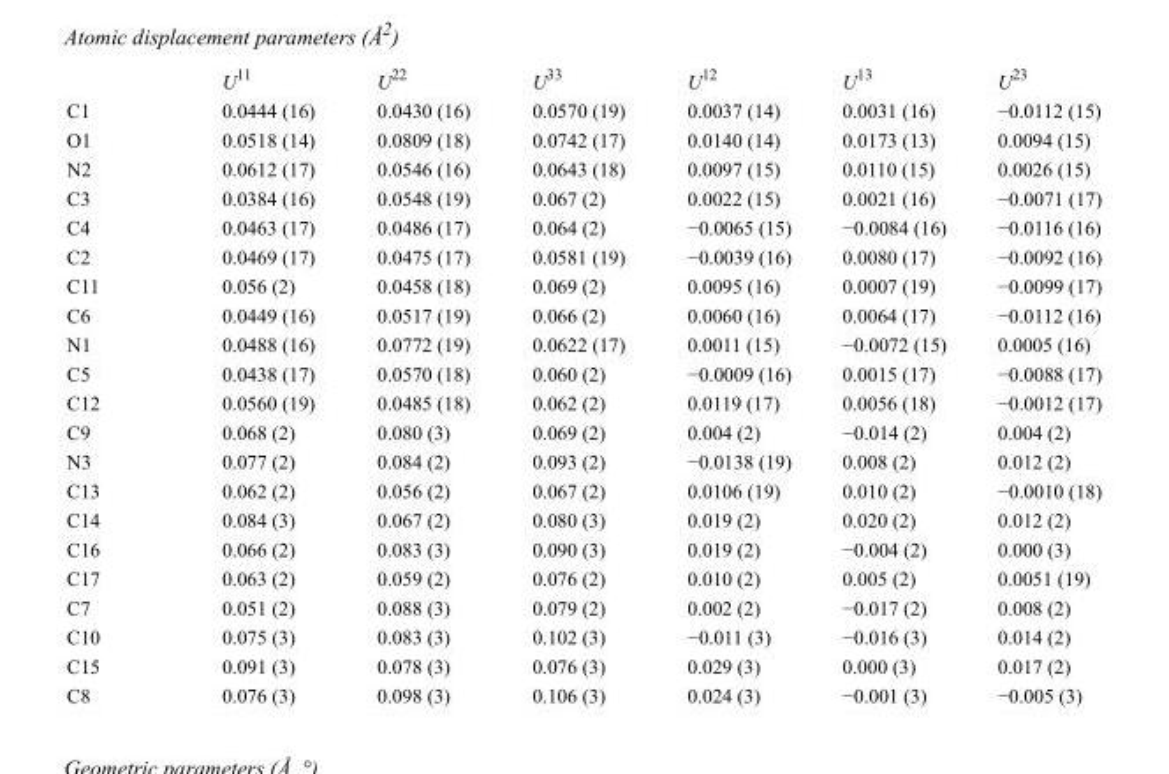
<table><thead><tr><td></td><td>U<sup>11</sup></td><td>U<sup>22</sup></td><td>U<sup>33</sup></td><td>U<sup>12</sup></td><td>U<sup>13</sup></td><td>U<sup>23</sup></td></tr></thead><tbody><tr><td>C1</td><td>0.0444 (16)</td><td>0.0430 (16)</td><td>0.0570 (19)</td><td>0.0037 (14)</td><td>0.0031 (16)</td><td>−0.0112 (15)</td></tr><tr><td>O1</td><td>0.0518 (14)</td><td>0.0809 (18)</td><td>0.0742 (17)</td><td>0.0140 (14)</td><td>0.0173 (13)</td><td>0.0094 (15)</td></tr><tr><td>N2</td><td>0.0612 (17)</td><td>0.0546 (16)</td><td>0.0643 (18)</td><td>0.0097 (15)</td><td>0.0110 (15)</td><td>0.0026 (15)</td></tr><tr><td>C3</td><td>0.0384 (16)</td><td>0.0548 (19)</td><td>0.067 (2)</td><td>0.0022 (15)</td><td>0.0021 (16)</td><td>−0.0071 (17)</td></tr><tr><td>C4</td><td>0.0463 (17)</td><td>0.0486 (17)</td><td>0.064 (2)</td><td>−0.0065 (15)</td><td>−0.0084 (16)</td><td>−0.0116 (16)</td></tr><tr><td>C2</td><td>0.0469 (17)</td><td>0.0475 (17)</td><td>0.0581 (19)</td><td>−0.0039 (16)</td><td>0.0080 (17)</td><td>−0.0092 (16)</td></tr><tr><td>C11</td><td>0.056 (2)</td><td>0.0458 (18)</td><td>0.069 (2)</td><td>0.0095 (16)</td><td>0.0007 (19)</td><td>−0.0099 (17)</td></tr><tr><td>C6</td><td>0.0449 (16)</td><td>0.0517 (19)</td><td>0.066 (2)</td><td>0.0060 (16)</td><td>0.0064 (17)</td><td>−0.0112 (16)</td></tr><tr><td>N1</td><td>0.0488 (16)</td><td>0.0772 (19)</td><td>0.0622 (17)</td><td>0.0011 (15)</td><td>−0.0072 (15)</td><td>0.0005 (16)</td></tr><tr><td>C5</td><td>0.0438 (17)</td><td>0.0570 (18)</td><td>0.060 (2)</td><td>−0.0009 (16)</td><td>0.0015 (17)</td><td>−0.0088 (17)</td></tr><tr><td>C12</td><td>0.0560 (19)</td><td>0.0485 (18)</td><td>0.062 (2)</td><td>0.0119 (17)</td><td>0.0056 (18)</td><td>−0.0012 (17)</td></tr><tr><td>C9</td><td>0.068 (2)</td><td>0.080 (3)</td><td>0.069 (2)</td><td>0.004 (2)</td><td>−0.014 (2)</td><td>0.004 (2)</td></tr><tr><td>N3</td><td>0.077 (2)</td><td>0.084 (2)</td><td>0.093 (2)</td><td>−0.0138 (19)</td><td>0.008 (2)</td><td>0.012 (2)</td></tr><tr><td>C13</td><td>0.062 (2)</td><td>0.056 (2)</td><td>0.067 (2)</td><td>0.0106 (19)</td><td>0.010 (2)</td><td>−0.0010 (18)</td></tr><tr><td>C14</td><td>0.084 (3)</td><td>0.067 (2)</td><td>0.080 (3)</td><td>0.019 (2)</td><td>0.020 (2)</td><td>0.012 (2)</td></tr><tr><td>C16</td><td>0.066 (2)</td><td>0.083 (3)</td><td>0.090 (3)</td><td>0.019 (2)</td><td>−0.004 (2)</td><td>0.000 (3)</td></tr><tr><td>C17</td><td>0.063 (2)</td><td>0.059 (2)</td><td>0.076 (2)</td><td>0.010 (2)</td><td>0.005 (2)</td><td>0.0051 (19)</td></tr><tr><td>C7</td><td>0.051 (2)</td><td>0.088 (3)</td><td>0.079 (2)</td><td>0.002 (2)</td><td>−0.017 (2)</td><td>0.008 (2)</td></tr><tr><td>C10</td><td>0.075 (3)</td><td>0.083 (3)</td><td>0.102 (3)</td><td>−0.011 (3)</td><td>−0.016 (3)</td><td>0.014 (2)</td></tr><tr><td>C15</td><td>0.091 (3)</td><td>0.078 (3)</td><td>0.076 (3)</td><td>0.029 (3)</td><td>0.000 (3)</td><td>0.017 (2)</td></tr><tr><td>C8</td><td>0.076 (3)</td><td>0.098 (3)</td><td>0.106 (3)</td><td>0.024 (3)</td><td>−0.001 (3)</td><td>−0.005 (3)</td></tr></tbody></table>